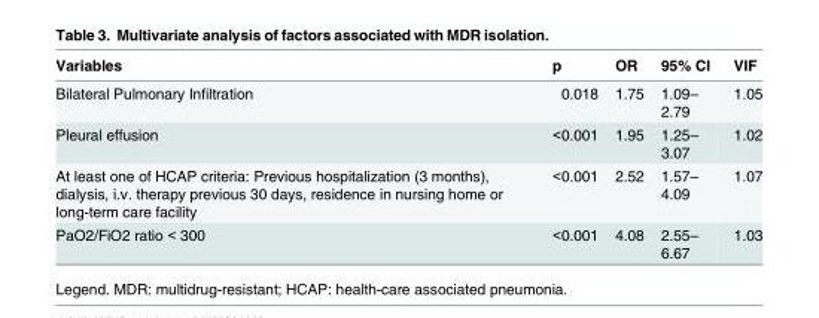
<table><thead><tr><td>Variables</td><td>p</td><td>OR</td><td>95% CI</td><td>VIF</td></tr></thead><tbody><tr><td>Bilateral Pulmonary Infiltration</td><td>0.018</td><td>1.75</td><td>1.09– 2.79</td><td>1.05</td></tr><tr><td>Pleural effusion</td><td>&lt;0.001</td><td>1.95</td><td>1.25– 3.07</td><td>1.02</td></tr><tr><td>At least one of HCAP criteria: Previous hospitalization (3 months), dialysis, i.v. therapy previous 30 days, residence in nursing home or long-term care facility</td><td>&lt;0.001</td><td>2.52</td><td>1.57– 4.09</td><td>1.07</td></tr><tr><td>PaO2/FiO2 ratio &lt; 300</td><td>&lt;0.001</td><td>4.08</td><td>2.55– 6.67</td><td>1.03</td></tr></tbody></table>